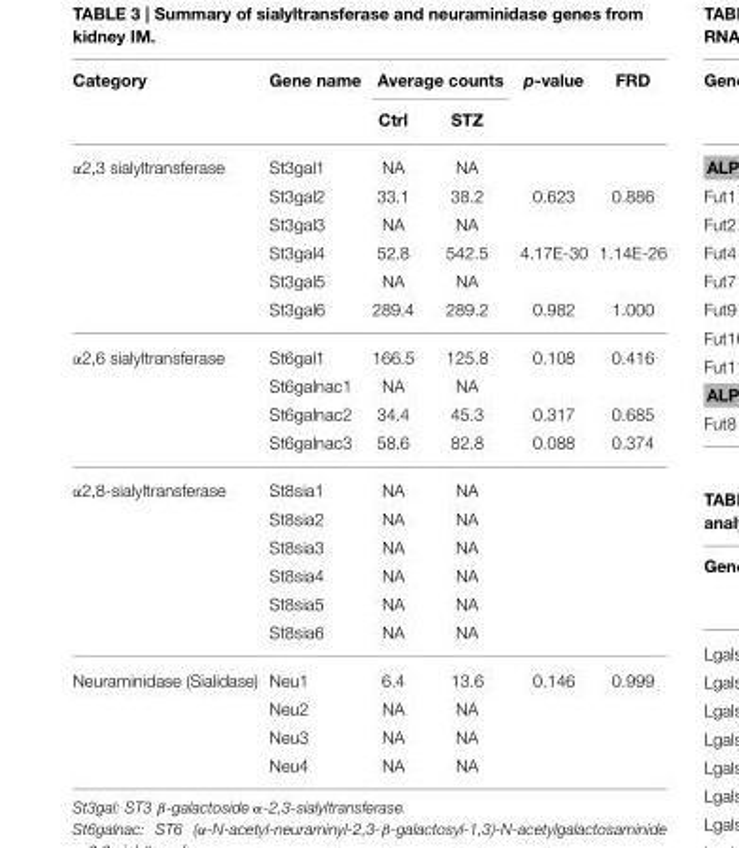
<table><thead><tr><td rowspan="2">Category</td><td rowspan="2">Gene name</td><td colspan="2">Average counts</td><td rowspan="2">p-value</td><td rowspan="2">FRD</td></tr><tr><td>Ctrl</td><td>STZ</td></tr></thead><tbody><tr><td rowspan="6">α2,3 sialyltransferase</td><td>St3gal1</td><td>NA</td><td>NA</td><td></td><td></td></tr><tr><td>St3gal2</td><td>33.1</td><td>38.2</td><td>0.623</td><td>0.886</td></tr><tr><td>St3gal3</td><td>NA</td><td>NA</td><td></td><td></td></tr><tr><td>St3gal4</td><td>52.8</td><td>542.5</td><td>4.17E-30</td><td>1.14E-26</td></tr><tr><td>St3gal5</td><td>NA</td><td>NA</td><td></td><td></td></tr><tr><td>St3gal6</td><td>289.4</td><td>289.2</td><td>0.982</td><td>1.000</td></tr><tr><td rowspan="4">α2,6 sialyltransferase</td><td>St6gal1</td><td>166.5</td><td>125.8</td><td>0.108</td><td>0.416</td></tr><tr><td>St6galnac1</td><td>NA</td><td>NA</td><td></td><td></td></tr><tr><td>St6galnac2</td><td>34.4</td><td>45.3</td><td>0.317</td><td>0.685</td></tr><tr><td>St6galnac3</td><td>58.6</td><td>82.8</td><td>0.088</td><td>0.374</td></tr><tr><td rowspan="6">α2,8-sialyltransferase</td><td>St8sia1</td><td>NA</td><td>NA</td><td></td><td></td></tr><tr><td>St8sia2</td><td>NA</td><td>NA</td><td></td><td></td></tr><tr><td>St8sia3</td><td>NA</td><td>NA</td><td></td><td></td></tr><tr><td>St8sia4</td><td>NA</td><td>NA</td><td></td><td></td></tr><tr><td>St8sia5</td><td>NA</td><td>NA</td><td></td><td></td></tr><tr><td>St8sia6</td><td>NA</td><td>NA</td><td></td><td></td></tr><tr><td rowspan="4">Neuraminidase (Sialidase)</td><td>Neu1</td><td>6.4</td><td>13.6</td><td>0.146</td><td>0.999</td></tr><tr><td>Neu2</td><td>NA</td><td>NA</td><td></td><td></td></tr><tr><td>Neu3</td><td>NA</td><td>NA</td><td></td><td></td></tr><tr><td>Neu4</td><td>NA</td><td>NA</td><td></td><td></td></tr></tbody></table>